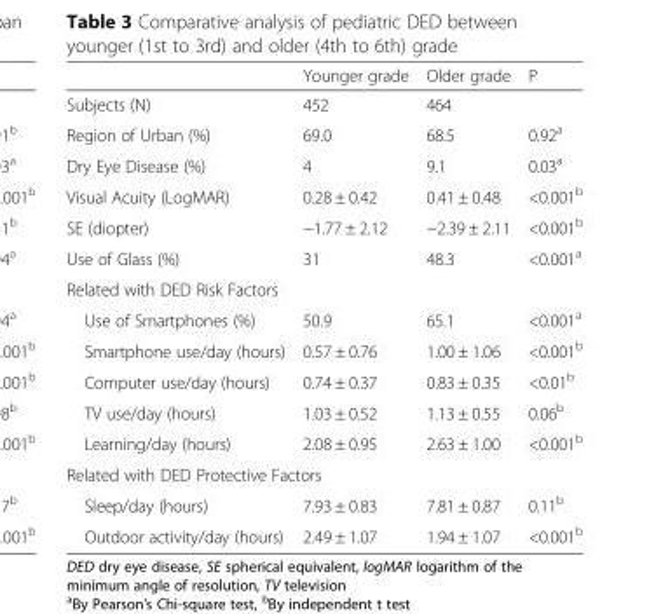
<table><thead><tr><td></td><td>Younger grade</td><td>Older grade</td><td>P</td></tr></thead><tbody><tr><td>Subjects (N)</td><td>452</td><td>464</td><td></td></tr><tr><td>Region of Urban (%)</td><td>69.0</td><td>68.5</td><td>0.92<sup>a</sup></td></tr><tr><td>Dry Eye Disease (%)</td><td>4</td><td>9.1</td><td>0.03<sup>a</sup></td></tr><tr><td>Visual Acuity (LogMAR)</td><td>0.28 ± 0.42</td><td>0.41 ± 0.48</td><td>&lt;0.001<sup>b</sup></td></tr><tr><td>SE (diopter)</td><td>−1.77 ± 2.12</td><td>−2.39 ± 2.11</td><td>&lt;0.001<sup>b</sup></td></tr><tr><td>Use of Glass (%)</td><td>31</td><td>48.3</td><td>&lt;0.001<sup>a</sup></td></tr><tr><td colspan="4">Related with DED Risk Factors</td></tr><tr><td>Use of Smartphones (%)</td><td>50.9</td><td>65.1</td><td>&lt;0.001<sup>a</sup></td></tr><tr><td>Smartphone use/day (hours)</td><td>0.57 ± 0.76</td><td>1.00 ± 1.06</td><td>&lt;0.001<sup>b</sup></td></tr><tr><td>Computer use/day (hours)</td><td>0.74 ± 0.37</td><td>0.83 ± 0.35</td><td>&lt;0.01<sup>b</sup></td></tr><tr><td>TV use/day (hours)</td><td>1.03 ± 0.52</td><td>1.13 ± 0.55</td><td>0.06<sup>b</sup></td></tr><tr><td>Learning/day (hours)</td><td>2.08 ± 0.95</td><td>2.63 ± 1.00</td><td>&lt;0.001<sup>b</sup></td></tr><tr><td colspan="4">Related with DED Protective Factors</td></tr><tr><td>Sleep/day (hours)</td><td>7.93 ± 0.83</td><td>7.81 ± 0.87</td><td>0.11<sup>b</sup></td></tr><tr><td>Outdoor activity/day (hours)</td><td>2.49 ± 1.07</td><td>1.94 ± 1.07</td><td>&lt;0.001<sup>b</sup></td></tr></tbody></table>